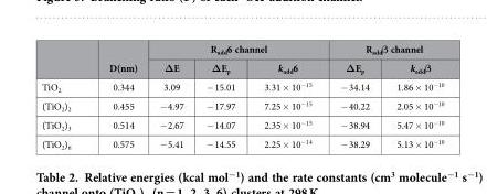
<table><thead><tr><td rowspan="2"></td><td rowspan="2">D(nm)</td><td colspan="3">R<sub>add</sub>6 channel</td><td colspan="2">R<sub>add</sub>β channel</td></tr><tr><td>ΔE</td><td>ΔE<sub>p</sub></td><td>k<sub>add</sub>6</td><td>ΔE<sub>p</sub></td><td>k<sub>add</sub>β</td></tr></thead><tbody><tr><td>TiO<sub>2</sub></td><td>0.344</td><td>3.09</td><td>− 15.01</td><td>3.31 × 10<sup>−15</sup></td><td>− 34.14</td><td>1.86 × 10<sup>−10</sup></td></tr><tr><td>(TiO<sub>2</sub>)<sub>2</sub></td><td>0.455</td><td>− 4.97</td><td>− 17.97</td><td>7.25 × 10<sup>−15</sup></td><td>− 40.22</td><td>2.05 × 10<sup>−10</sup></td></tr><tr><td>(TiO<sub>2</sub>)<sub>3</sub></td><td>0.514</td><td>− 2.67</td><td>− 14.07</td><td>2.35 × 10<sup>−15</sup></td><td>− 38.94</td><td>5.47 × 10<sup>−10</sup></td></tr><tr><td>(TiO<sub>2</sub>)<sub>6</sub></td><td>0.575</td><td>− 5.41</td><td>− 14.55</td><td>2.25 × 10<sup>−14</sup></td><td>− 38.29</td><td>5.13 × 10<sup>−10</sup></td></tr></tbody></table>